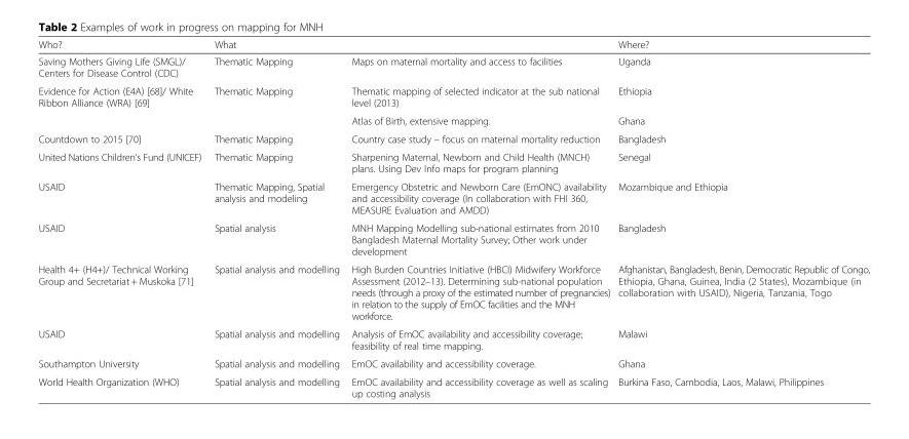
<table><thead><tr><td rowspan="2">Who? Saving Mothers Giving Life (SMGL)/ Centers for Disease Control (CDC)</td><td colspan="2">What</td><td rowspan="2">Where? Uganda</td></tr><tr><td>Thematic Mapping</td><td>Maps on maternal mortality and access to facilities</td></tr></thead><tbody><tr><td rowspan="2">Evidence for Action (E4A) [68]/ White Ribbon Alliance (WRA) [69]</td><td>Thematic Mapping</td><td>Thematic mapping of selected indicator at the sub national level (2013)</td><td>Ethiopia</td></tr><tr><td></td><td>Atlas of Birth, extensive mapping.</td><td>Ghana</td></tr><tr><td>Countdown to 2015 [70]</td><td>Thematic Mapping</td><td>Country case study – focus on maternal mortality reduction</td><td>Bangladesh</td></tr><tr><td>United Nations Children’s Fund (UNICEF)</td><td>Thematic Mapping</td><td>Sharpening Maternal, Newborn and Child Health (MNCH) plans. Using Dev Info maps for program planning</td><td>Senegal</td></tr><tr><td>USAID</td><td>Thematic Mapping, Spatial analysis and modeling</td><td>Emergency Obstetric and Newborn Care (EmONC) availability and accessibility coverage (In collaboration with FHI 360, MEASURE Evaluation and AMDD)</td><td>Mozambique and Ethiopia</td></tr><tr><td>USAID</td><td>Spatial analysis</td><td>MNH Mapping Modelling sub-national estimates from 2010 Bangladesh Maternal Mortality Survey; Other work under development</td><td>Bangladesh</td></tr><tr><td>Health 4+ (H4+)/ Technical Working Group and Secretariat + Muskoka [71]</td><td>Spatial analysis and modelling</td><td>High Burden Countries Initiative (HBCI) Midwifery Workforce Assessment (2012–13). Determining sub-national population needs (through a proxy of the estimated number of pregnancies) in relation to the supply of EmOC facilities and the MNH workforce.</td><td>Afghanistan, Bangladesh, Benin, Democratic Republic of Congo, Ethiopia, Ghana, Guinea, India (2 States), Mozambique (in collaboration with USAID), Nigeria, Tanzania, Togo</td></tr><tr><td>USAID</td><td>Spatial analysis and modelling</td><td>Analysis of EmOC availability and accessibility coverage; feasibility of real time mapping.</td><td>Malawi</td></tr><tr><td>Southampton University</td><td>Spatial analysis and modelling</td><td>EmOC availability and accessibility coverage.</td><td>Ghana</td></tr><tr><td>World Health Organization (WHO)</td><td>Spatial analysis and modelling</td><td>EmOC availability and accessibility coverage as well as scaling up costing analysis</td><td>Burkina Faso, Cambodia, Laos, Malawi, Philippines</td></tr></tbody></table>